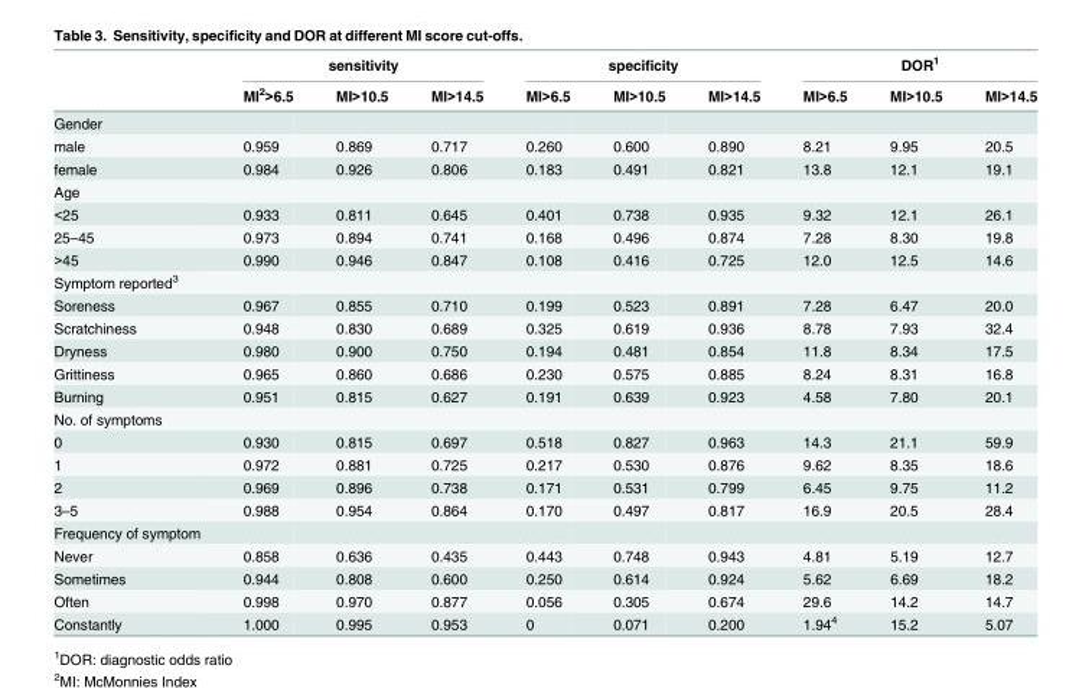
<table><thead><tr><td rowspan="2"></td><td colspan="3">sensitivity</td><td colspan="3">specificity</td><td colspan="3">DOR<sup>1</sup></td></tr><tr><td>MI<sup>2</sup>&gt;6.5</td><td>MI&gt;10.5</td><td>MI&gt;14.5</td><td>MI&gt;6.5</td><td>MI&gt;10.5</td><td>MI&gt;14.5</td><td>MI&gt;6.5</td><td>MI&gt;10.5</td><td>MI&gt;14.5</td></tr></thead><tbody><tr><td colspan="10">Gender</td></tr><tr><td>male</td><td>0.959</td><td>0.869</td><td>0.717</td><td>0.260</td><td>0.600</td><td>0.890</td><td>8.21</td><td>9.95</td><td>20.5</td></tr><tr><td>female</td><td>0.984</td><td>0.926</td><td>0.806</td><td>0.183</td><td>0.491</td><td>0.821</td><td>13.8</td><td>12.1</td><td>19.1</td></tr><tr><td colspan="10">Age</td></tr><tr><td>&lt;25</td><td>0.933</td><td>0.811</td><td>0.645</td><td>0.401</td><td>0.738</td><td>0.935</td><td>9.32</td><td>12.1</td><td>26.1</td></tr><tr><td>25–45</td><td>0.973</td><td>0.894</td><td>0.741</td><td>0.168</td><td>0.496</td><td>0.874</td><td>7.28</td><td>8.30</td><td>19.8</td></tr><tr><td>&gt;45</td><td>0.990</td><td>0.946</td><td>0.847</td><td>0.108</td><td>0.416</td><td>0.725</td><td>12.0</td><td>12.5</td><td>14.6</td></tr><tr><td colspan="10">Symptom reported<sup>3</sup></td></tr><tr><td>Soreness</td><td>0.967</td><td>0.855</td><td>0.710</td><td>0.199</td><td>0.523</td><td>0.891</td><td>7.28</td><td>6.47</td><td>20.0</td></tr><tr><td>Scratchiness</td><td>0.948</td><td>0.830</td><td>0.689</td><td>0.325</td><td>0.619</td><td>0.936</td><td>8.78</td><td>7.93</td><td>32.4</td></tr><tr><td>Dryness</td><td>0.980</td><td>0.900</td><td>0.750</td><td>0.194</td><td>0.481</td><td>0.854</td><td>11.8</td><td>8.34</td><td>17.5</td></tr><tr><td>Grittiness</td><td>0.965</td><td>0.860</td><td>0.686</td><td>0.230</td><td>0.575</td><td>0.885</td><td>8.24</td><td>8.31</td><td>16.8</td></tr><tr><td>Burning</td><td>0.951</td><td>0.815</td><td>0.627</td><td>0.191</td><td>0.639</td><td>0.923</td><td>4.58</td><td>7.80</td><td>20.1</td></tr><tr><td colspan="10">No. of symptoms</td></tr><tr><td>0</td><td>0.930</td><td>0.815</td><td>0.697</td><td>0.518</td><td>0.827</td><td>0.963</td><td>14.3</td><td>21.1</td><td>59.9</td></tr><tr><td>1</td><td>0.972</td><td>0.881</td><td>0.725</td><td>0.217</td><td>0.530</td><td>0.876</td><td>9.62</td><td>8.35</td><td>18.6</td></tr><tr><td>2</td><td>0.969</td><td>0.896</td><td>0.738</td><td>0.171</td><td>0.531</td><td>0.799</td><td>6.45</td><td>9.75</td><td>11.2</td></tr><tr><td>3–5</td><td>0.988</td><td>0.954</td><td>0.864</td><td>0.170</td><td>0.497</td><td>0.817</td><td>16.9</td><td>20.5</td><td>28.4</td></tr><tr><td colspan="10">Frequency of symptom</td></tr><tr><td>Never</td><td>0.858</td><td>0.636</td><td>0.435</td><td>0.443</td><td>0.748</td><td>0.943</td><td>4.81</td><td>5.19</td><td>12.7</td></tr><tr><td>Sometimes</td><td>0.944</td><td>0.808</td><td>0.600</td><td>0.250</td><td>0.614</td><td>0.924</td><td>5.62</td><td>6.69</td><td>18.2</td></tr><tr><td>Often</td><td>0.998</td><td>0.970</td><td>0.877</td><td>0.056</td><td>0.305</td><td>0.674</td><td>29.6</td><td>14.2</td><td>14.7</td></tr><tr><td>Constantly</td><td>1.000</td><td>0.995</td><td>0.953</td><td>0</td><td>0.071</td><td>0.200</td><td>1.94<sup>4</sup></td><td>15.2</td><td>5.07</td></tr></tbody></table>